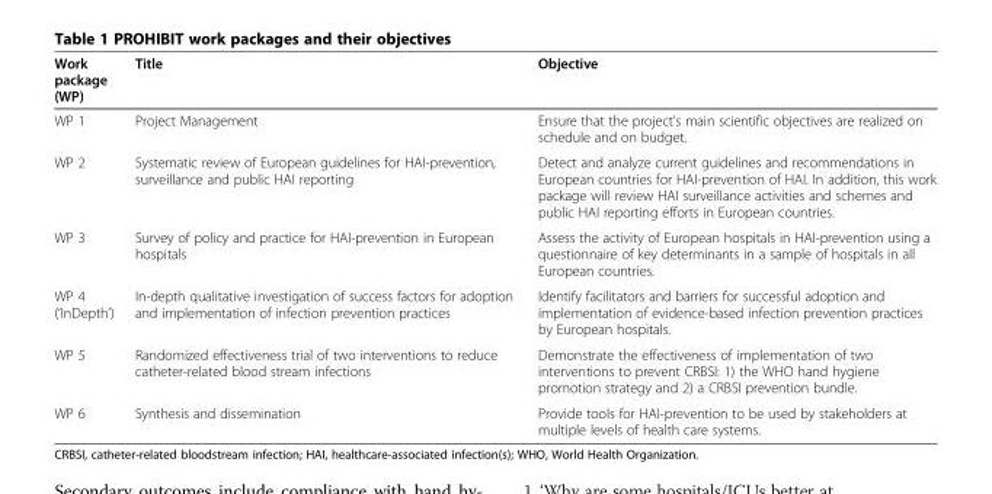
<table><thead><tr><td>Work package (WP)</td><td>Title</td><td>Objective</td></tr></thead><tbody><tr><td>WP 1</td><td>Project Management</td><td>Ensure that the project’s main scientific objectives are realized on schedule and on budget.</td></tr><tr><td>WP 2</td><td>Systematic review of European guidelines for HAI-prevention, surveillance and public HAI reporting</td><td>Detect and analyze current guidelines and recommendations in European countries for HAI-prevention of HAI. In addition, this work package will review HAI surveillance activities and schemes and public HAI reporting efforts in European countries.</td></tr><tr><td>WP 3</td><td>Survey of policy and practice for HAI-prevention in European hospitals</td><td>Assess the activity of European hospitals in HAI-prevention using a questionnaire of key determinants in a sample of hospitals in all European countries.</td></tr><tr><td>WP 4 (‘InDepth’)</td><td>In-depth qualitative investigation of success factors for adoption and implementation of infection prevention practices</td><td>Identify facilitators and barriers for successful adoption and implementation of evidence-based infection prevention practices by European hospitals.</td></tr><tr><td>WP 5</td><td>Randomized effectiveness trial of two interventions to reduce catheter-related blood stream infections</td><td>Demonstrate the effectiveness of implementation of two interventions to prevent CRBSI: 1) the WHO hand hygiene promotion strategy and 2) a CRBSI prevention bundle.</td></tr><tr><td>WP 6</td><td>Synthesis and dissemination</td><td>Provide tools for HAI-prevention to be used by stakeholders at multiple levels of health care systems.</td></tr></tbody></table>